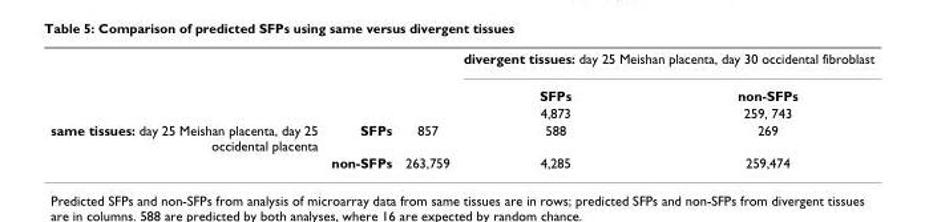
<table><thead><tr><td rowspan="2"></td><td rowspan="2"></td><td rowspan="2"></td><td colspan="2">divergent tissues: day 25 Meishan placenta, day 30 occidental fibroblast</td></tr><tr><td>SFPs</td><td>non-SFPs</td></tr></thead><tbody><tr><td></td><td></td><td></td><td>4,873</td><td>259, 743</td></tr><tr><td rowspan="2">same tissues: day 25 Meishan placenta, day 25 occidental placenta</td><td>SFPs</td><td>857</td><td>588</td><td>269</td></tr><tr><td>non-SFPs</td><td>263,759</td><td>4,285</td><td>259,474</td></tr></tbody></table>